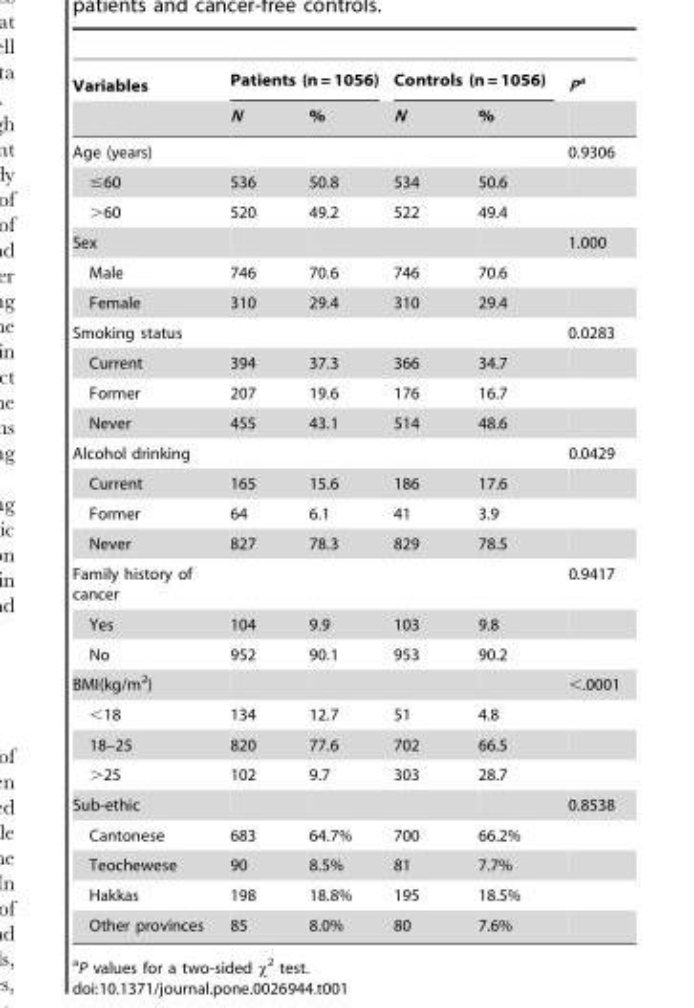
<table><thead><tr><td rowspan="2">Variables</td><td colspan="2">Patients (n = 1056)</td><td colspan="2">Controls (n = 1056)</td><td rowspan="2">Pa</td></tr><tr><td>N</td><td>%</td><td>N</td><td>%</td></tr></thead><tbody><tr><td>Age (years)</td><td></td><td></td><td></td><td></td><td>0.9306</td></tr><tr><td>≤60</td><td>536</td><td>50.8</td><td>534</td><td>50.6</td><td></td></tr><tr><td>&gt;60</td><td>520</td><td>49.2</td><td>522</td><td>49.4</td><td></td></tr><tr><td>Sex</td><td></td><td></td><td></td><td></td><td>1.000</td></tr><tr><td>Male</td><td>746</td><td>70.6</td><td>746</td><td>70.6</td><td></td></tr><tr><td>Female</td><td>310</td><td>29.4</td><td>310</td><td>29.4</td><td></td></tr><tr><td>Smoking status</td><td></td><td></td><td></td><td></td><td>0.0283</td></tr><tr><td>Current</td><td>394</td><td>37.3</td><td>366</td><td>34.7</td><td></td></tr><tr><td>Former</td><td>207</td><td>19.6</td><td>176</td><td>16.7</td><td></td></tr><tr><td>Never</td><td>455</td><td>43.1</td><td>514</td><td>48.6</td><td></td></tr><tr><td>Alcohol drinking</td><td></td><td></td><td></td><td></td><td>0.0429</td></tr><tr><td>Current</td><td>165</td><td>15.6</td><td>186</td><td>17.6</td><td></td></tr><tr><td>Former</td><td>64</td><td>6.1</td><td>41</td><td>3.9</td><td></td></tr><tr><td>Never</td><td>827</td><td>78.3</td><td>829</td><td>78.5</td><td></td></tr><tr><td>Family history of cancer</td><td></td><td></td><td></td><td></td><td>0.9417</td></tr><tr><td>Yes</td><td>104</td><td>9.9</td><td>103</td><td>9.8</td><td></td></tr><tr><td>No</td><td>952</td><td>90.1</td><td>953</td><td>90.2</td><td></td></tr><tr><td>BMI(kg/m<sup>2</sup>)</td><td></td><td></td><td></td><td></td><td>&lt;.0001</td></tr><tr><td>&lt;18</td><td>134</td><td>12.7</td><td>51</td><td>4.8</td><td></td></tr><tr><td>18–25</td><td>820</td><td>77.6</td><td>702</td><td>66.5</td><td></td></tr><tr><td>&gt;25</td><td>102</td><td>9.7</td><td>303</td><td>28.7</td><td></td></tr><tr><td>Sub-ethic</td><td></td><td></td><td></td><td></td><td>0.8538</td></tr><tr><td>Cantonese</td><td>683</td><td>64.7%</td><td>700</td><td>66.2%</td><td></td></tr><tr><td>Teochewese</td><td>90</td><td>8.5%</td><td>81</td><td>7.7%</td><td></td></tr><tr><td>Hakkas</td><td>198</td><td>18.8%</td><td>195</td><td>18.5%</td><td></td></tr><tr><td>Other provinces</td><td>85</td><td>8.0%</td><td>80</td><td>7.6%</td><td></td></tr></tbody></table>